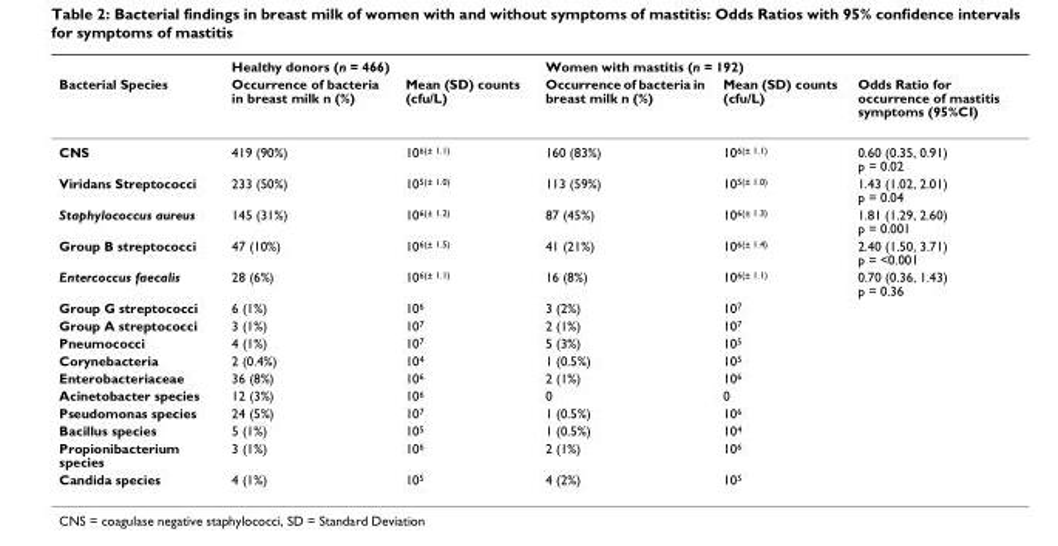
<table><thead><tr><td rowspan="2">Bacterial Species</td><td colspan="2">Healthy donors (n = 466)</td><td colspan="2">Women with mastitis (n = 192)</td><td rowspan="2">Odds Ratio for occurrence of mastitis symptoms (95%CI)</td></tr><tr><td>Occurrence of bacteria in breast milk n (%)</td><td>Mean (SD) counts (cfu/L)</td><td>Occurrence of bacteria in breast milk n (%)</td><td>Mean (SD) counts (cfu/L)</td></tr></thead><tbody><tr><td>CNS</td><td>419 (90%)</td><td>10<sup>6(± 1.1)</sup></td><td>160 (83%)</td><td>10<sup>6(± 1.1)</sup></td><td>0.60 (0.35, 0.91) p = 0.02</td></tr><tr><td>Viridans Streptococci</td><td>233 (50%)</td><td>10<sup>5(± 1.0)</sup></td><td>113 (59%)</td><td>10<sup>5(± 1.0)</sup></td><td>1.43 (1.02, 2.01) p = 0.04</td></tr><tr><td>Staphylococcus aureus</td><td>145 (31%)</td><td>10<sup>6(± 1.2)</sup></td><td>87 (45%)</td><td>10<sup>6(± 1.3)</sup></td><td>1.81 (1.29, 2.60) p = 0.001</td></tr><tr><td>Group B streptococci</td><td>47 (10%)</td><td>10<sup>6(± 1.5)</sup></td><td>41 (21%)</td><td>10<sup>6(± 1.4)</sup></td><td>2.40 (1.50, 3.71) p = &lt;0.001</td></tr><tr><td>Entercoccus faecalis</td><td>28 (6%)</td><td>10<sup>6(± 1.1)</sup></td><td>16 (8%)</td><td>10<sup>6(± 1.1)</sup></td><td>0.70 (0.36, 1.43) p = 0.36</td></tr><tr><td>Group G streptococci</td><td>6 (1%)</td><td>10<sup>6</sup></td><td>3 (2%)</td><td>10<sup>7</sup></td><td></td></tr><tr><td>Group A streptococci</td><td>3 (1%)</td><td>10<sup>7</sup></td><td>2 (1%)</td><td>10<sup>7</sup></td><td></td></tr><tr><td>Pneumococci</td><td>4 (1%)</td><td>10<sup>7</sup></td><td>5 (3%)</td><td>10<sup>5</sup></td><td></td></tr><tr><td>Corynebacteria</td><td>2 (0.4%)</td><td>10<sup>4</sup></td><td>1 (0.5%)</td><td>10<sup>5</sup></td><td></td></tr><tr><td>Enterobacteriaceae</td><td>36 (8%)</td><td>10<sup>6</sup></td><td>2 (1%)</td><td>10<sup>6</sup></td><td></td></tr><tr><td>Acinetobacter species</td><td>12 (3%)</td><td>10<sup>6</sup></td><td>0</td><td>0</td><td></td></tr><tr><td>Pseudomonas species</td><td>24 (5%)</td><td>10<sup>7</sup></td><td>1 (0.5%)</td><td>10<sup>6</sup></td><td></td></tr><tr><td>Bacillus species</td><td>5 (1%)</td><td>10<sup>5</sup></td><td>1 (0.5%)</td><td>10<sup>4</sup></td><td></td></tr><tr><td>Propionibacterium species</td><td>3 (1%)</td><td>10<sup>6</sup></td><td>2 (1%)</td><td>10<sup>6</sup></td><td></td></tr><tr><td>Candida species</td><td>4 (1%)</td><td>10<sup>5</sup></td><td>4 (2%)</td><td>10<sup>5</sup></td><td></td></tr></tbody></table>